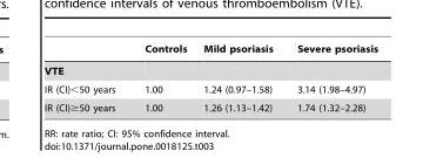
<table><thead><tr><td></td><td>Controls</td><td>Mild psoriasis</td><td>Severe psoriasis</td></tr></thead><tbody><tr><td colspan="4">VTE</td></tr><tr><td>IR (CI)&lt;50 years</td><td>1.00</td><td>1.24 (0.97–1.58)</td><td>3.14 (1.98–4.97)</td></tr><tr><td>IR (CI)≥50 years</td><td>1.00</td><td>1.26 (1.13–1.42)</td><td>1.74 (1.32–2.28)</td></tr></tbody></table>